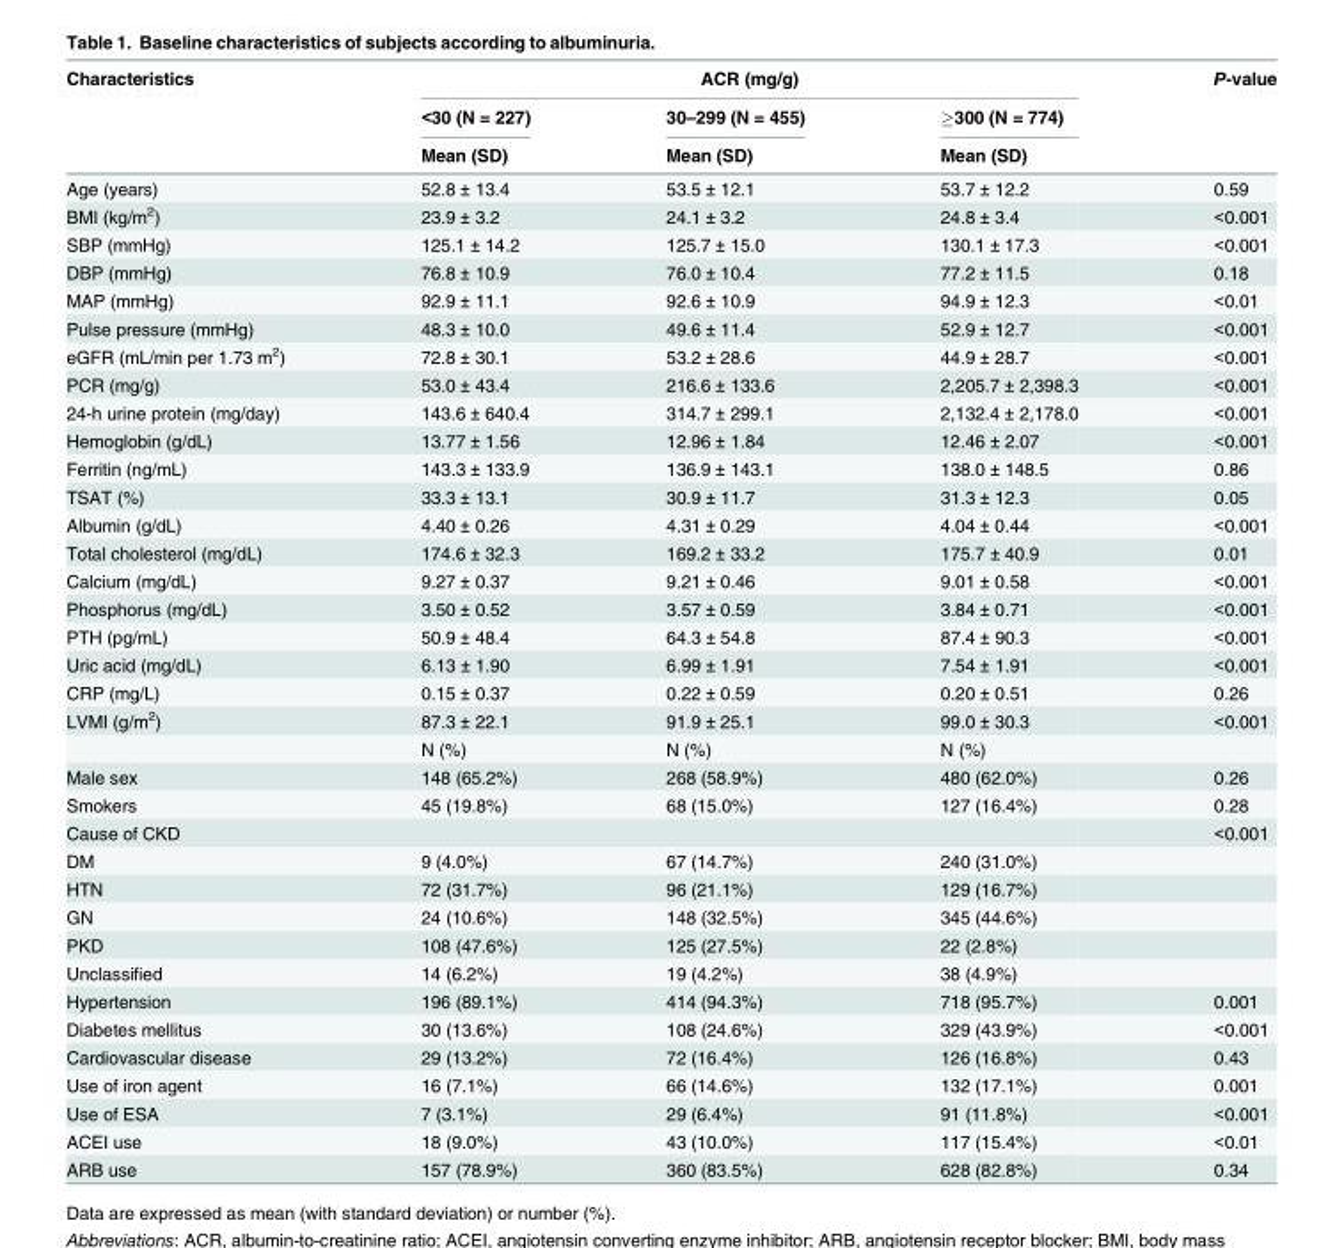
<table><thead><tr><td rowspan="3">Characteristics</td><td colspan="3">ACR (mg/g)</td><td rowspan="3">P-value</td></tr><tr><td rowspan="2">&lt;30 (N = 227) Mean (SD)</td><td rowspan="2">30–299 (N = 455) Mean (SD)</td><td rowspan="2">≥300 (N = 774) Mean (SD)</td></tr><tr></tr></thead><tbody><tr><td>Age (years)</td><td>52.8 ± 13.4</td><td>53.5 ± 12.1</td><td>53.7 ± 12.2</td><td>0.59</td></tr><tr><td>BMI (kg/m<sup>2</sup>)</td><td>23.9 ± 3.2</td><td>24.1 ± 3.2</td><td>24.8 ± 3.4</td><td>&lt;0.001</td></tr><tr><td>SBP (mmHg)</td><td>125.1 ± 14.2</td><td>125.7 ± 15.0</td><td>130.1 ± 17.3</td><td>&lt;0.001</td></tr><tr><td>DBP (mmHg)</td><td>76.8 ± 10.9</td><td>76.0 ± 10.4</td><td>77.2 ± 11.5</td><td>0.18</td></tr><tr><td>MAP (mmHg)</td><td>92.9 ± 11.1</td><td>92.6 ± 10.9</td><td>94.9 ± 12.3</td><td>&lt;0.01</td></tr><tr><td>Pulse pressure (mmHg)</td><td>48.3 ± 10.0</td><td>49.6 ± 11.4</td><td>52.9 ± 12.7</td><td>&lt;0.001</td></tr><tr><td>eGFR (mL/min per 1.73 m<sup>2</sup>)</td><td>72.8 ± 30.1</td><td>53.2 ± 28.6</td><td>44.9 ± 28.7</td><td>&lt;0.001</td></tr><tr><td>PCR (mg/g)</td><td>53.0 ± 43.4</td><td>216.6 ± 133.6</td><td>2,205.7 ± 2,398.3</td><td>&lt;0.001</td></tr><tr><td>24-h urine protein (mg/day)</td><td>143.6 ± 640.4</td><td>314.7 ± 299.1</td><td>2,132.4 ± 2,178.0</td><td>&lt;0.001</td></tr><tr><td>Hemoglobin (g/dL)</td><td>13.77 ± 1.56</td><td>12.96 ± 1.84</td><td>12.46 ± 2.07</td><td>&lt;0.001</td></tr><tr><td>Ferritin (ng/mL)</td><td>143.3 ± 133.9</td><td>136.9 ± 143.1</td><td>138.0 ± 148.5</td><td>0.86</td></tr><tr><td>TSAT (%)</td><td>33.3 ± 13.1</td><td>30.9 ± 11.7</td><td>31.3 ± 12.3</td><td>0.05</td></tr><tr><td>Albumin (g/dL)</td><td>4.40 ± 0.26</td><td>4.31 ± 0.29</td><td>4.04 ± 0.44</td><td>&lt;0.001</td></tr><tr><td>Total cholesterol (mg/dL)</td><td>174.6 ± 32.3</td><td>169.2 ± 33.2</td><td>175.7 ± 40.9</td><td>0.01</td></tr><tr><td>Calcium (mg/dL)</td><td>9.27 ± 0.37</td><td>9.21 ± 0.46</td><td>9.01 ± 0.58</td><td>&lt;0.001</td></tr><tr><td>Phosphorus (mg/dL)</td><td>3.50 ± 0.52</td><td>3.57 ± 0.59</td><td>3.84 ± 0.71</td><td>&lt;0.001</td></tr><tr><td>PTH (pg/mL)</td><td>50.9 ± 48.4</td><td>64.3 ± 54.8</td><td>87.4 ± 90.3</td><td>&lt;0.001</td></tr><tr><td>Uric acid (mg/dL)</td><td>6.13 ± 1.90</td><td>6.99 ± 1.91</td><td>7.54 ± 1.91</td><td>&lt;0.001</td></tr><tr><td>CRP (mg/L)</td><td>0.15 ± 0.37</td><td>0.22 ± 0.59</td><td>0.20 ± 0.51</td><td>0.26</td></tr><tr><td rowspan="2">LVMI (g/m<sup>2</sup>)</td><td>87.3 ± 22.1</td><td>91.9 ± 25.1</td><td>99.0 ± 30.3</td><td>&lt;0.001</td></tr><tr><td>N (%)</td><td>N (%)</td><td>N (%)</td><td></td></tr><tr><td>Male sex</td><td>148 (65.2%)</td><td>268 (58.9%)</td><td>480 (62.0%)</td><td>0.26</td></tr><tr><td>Smokers</td><td>45 (19.8%)</td><td>68 (15.0%)</td><td>127 (16.4%)</td><td>0.28</td></tr><tr><td>Cause of CKD</td><td></td><td></td><td></td><td>&lt;0.001</td></tr><tr><td>DM</td><td>9 (4.0%)</td><td>67 (14.7%)</td><td>240 (31.0%)</td><td></td></tr><tr><td>HTN</td><td>72 (31.7%)</td><td>96 (21.1%)</td><td>129 (16.7%)</td><td></td></tr><tr><td>GN</td><td>24 (10.6%)</td><td>148 (32.5%)</td><td>345 (44.6%)</td><td></td></tr><tr><td>PKD</td><td>108 (47.6%)</td><td>125 (27.5%)</td><td>22 (2.8%)</td><td></td></tr><tr><td>Unclassified</td><td>14 (6.2%)</td><td>19 (4.2%)</td><td>38 (4.9%)</td><td></td></tr><tr><td>Hypertension</td><td>196 (89.1%)</td><td>414 (94.3%)</td><td>718 (95.7%)</td><td>0.001</td></tr><tr><td>Diabetes mellitus</td><td>30 (13.6%)</td><td>108 (24.6%)</td><td>329 (43.9%)</td><td>&lt;0.001</td></tr><tr><td>Cardiovascular disease</td><td>29 (13.2%)</td><td>72 (16.4%)</td><td>126 (16.8%)</td><td>0.43</td></tr><tr><td>Use of iron agent</td><td>16 (7.1%)</td><td>66 (14.6%)</td><td>132 (17.1%)</td><td>0.001</td></tr><tr><td>Use of ESA</td><td>7 (3.1%)</td><td>29 (6.4%)</td><td>91 (11.8%)</td><td>&lt;0.001</td></tr><tr><td>ACEI use</td><td>18 (9.0%)</td><td>43 (10.0%)</td><td>117 (15.4%)</td><td>&lt;0.01</td></tr><tr><td>ARB use</td><td>157 (78.9%)</td><td>360 (83.5%)</td><td>628 (82.8%)</td><td>0.34</td></tr></tbody></table>